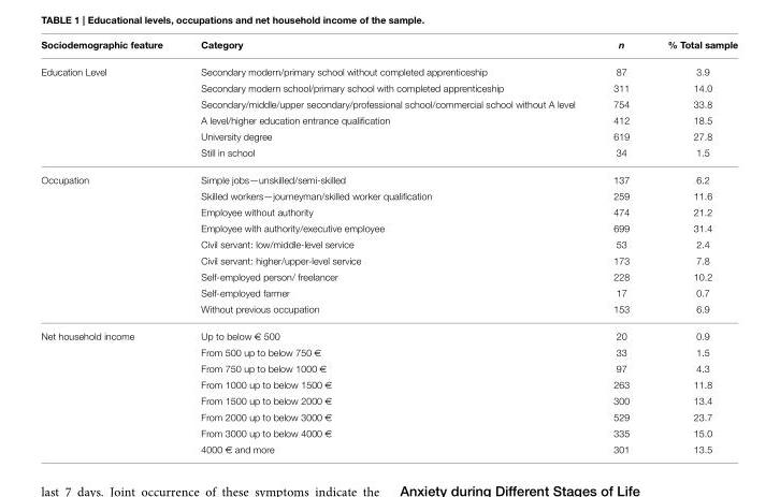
<table><thead><tr><td>Sociodemographic feature</td><td>Category</td><td>n</td><td>% Total sample</td></tr></thead><tbody><tr><td rowspan="6">Education Level</td><td>Secondary modern/primary school without completed apprenticeship</td><td>87</td><td>3.9</td></tr><tr><td>Secondary modern school/primary school with completed apprenticeship</td><td>311</td><td>14.0</td></tr><tr><td>Secondary/middle/upper secondary/professional school/commercial school without A level</td><td>754</td><td>33.8</td></tr><tr><td>A level/higher education entrance qualification</td><td>412</td><td>18.5</td></tr><tr><td>University degree</td><td>619</td><td>27.8</td></tr><tr><td>Still in school</td><td>34</td><td>1.5</td></tr><tr><td rowspan="9">Occupation</td><td>Simple jobs—unskilled/semi-skilled</td><td>137</td><td>6.2</td></tr><tr><td>Skilled workers—journeyman/skilled worker qualification</td><td>259</td><td>11.6</td></tr><tr><td>Employee without authority</td><td>474</td><td>21.2</td></tr><tr><td>Employee with authority/executive employee</td><td>699</td><td>31.4</td></tr><tr><td>Civil servant: low/middle-level service</td><td>53</td><td>2.4</td></tr><tr><td>Civil servant: higher/upper-level service</td><td>173</td><td>7.8</td></tr><tr><td>Self-employed person/ freelancer</td><td>228</td><td>10.2</td></tr><tr><td>Self-employed farmer</td><td>17</td><td>0.7</td></tr><tr><td>Without previous occupation</td><td>153</td><td>6.9</td></tr><tr><td rowspan="8">Net household income</td><td>Up to below € 500</td><td>20</td><td>0.9</td></tr><tr><td>From 500 up to below 750 €</td><td>33</td><td>1.5</td></tr><tr><td>From 750 up to below 1000 €</td><td>97</td><td>4.3</td></tr><tr><td>From 1000 up to below 1500 €</td><td>263</td><td>11.8</td></tr><tr><td>From 1500 up to below 2000 €</td><td>300</td><td>13.4</td></tr><tr><td>From 2000 up to below 3000 €</td><td>529</td><td>23.7</td></tr><tr><td>From 3000 up to below 4000 €</td><td>335</td><td>15.0</td></tr><tr><td>4000 € and more</td><td>301</td><td>13.5</td></tr></tbody></table>